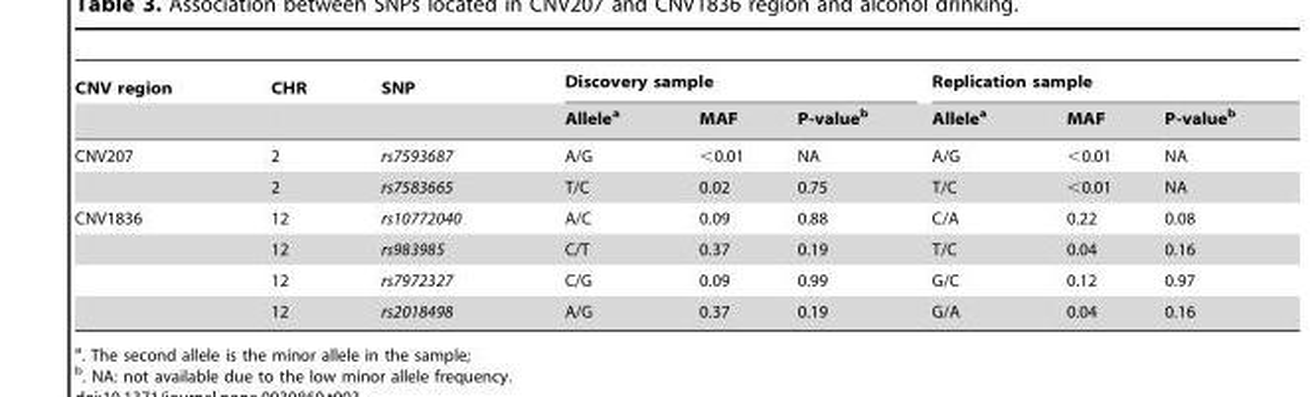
<table><thead><tr><td rowspan="2">CNV region</td><td rowspan="2">CHR</td><td rowspan="2">SNP</td><td colspan="3">Discovery sample</td><td colspan="3">Replication sample</td></tr><tr><td>Allele<sup>a</sup></td><td>MAF</td><td>P-value<sup>b</sup></td><td>Allele<sup>a</sup></td><td>MAF</td><td>P-value<sup>b</sup></td></tr></thead><tbody><tr><td rowspan="2">CNV207</td><td>2</td><td>rs7593687</td><td>A/G</td><td>&lt;0.01</td><td>NA</td><td>A/G</td><td>&lt;0.01</td><td>NA</td></tr><tr><td>2</td><td>rs7583665</td><td>T/C</td><td>0.02</td><td>0.75</td><td>T/C</td><td>&lt;0.01</td><td>NA</td></tr><tr><td rowspan="4">CNV1836</td><td>12</td><td>rs10772040</td><td>A/C</td><td>0.09</td><td>0.88</td><td>C/A</td><td>0.22</td><td>0.08</td></tr><tr><td>12</td><td>rs983985</td><td>C/T</td><td>0.37</td><td>0.19</td><td>T/C</td><td>0.04</td><td>0.16</td></tr><tr><td>12</td><td>rs7972327</td><td>C/G</td><td>0.09</td><td>0.99</td><td>G/C</td><td>0.12</td><td>0.97</td></tr><tr><td>12</td><td>rs2018498</td><td>A/G</td><td>0.37</td><td>0.19</td><td>G/A</td><td>0.04</td><td>0.16</td></tr></tbody></table>